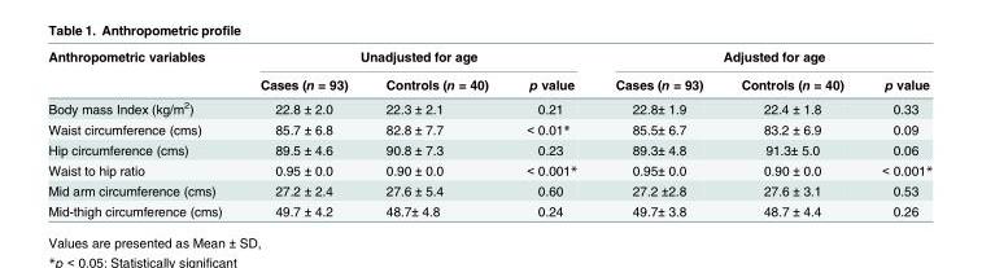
<table><thead><tr><td rowspan="2">Anthropometric variables</td><td colspan="3">Unadjusted for age</td><td colspan="3">Adjusted for age</td></tr><tr><td>Cases (n = 93)</td><td>Controls (n = 40)</td><td>p value</td><td>Cases (n = 93)</td><td>Controls (n = 40)</td><td>p value</td></tr></thead><tbody><tr><td>Body mass Index (kg/m<sup>2</sup>)</td><td>22.8 ± 2.0</td><td>22.3 ± 2.1</td><td>0.21</td><td>22.8± 1.9</td><td>22.4 ± 1.8</td><td>0.33</td></tr><tr><td>Waist circumference (cms)</td><td>85.7 ± 6.8</td><td>82.8 ± 7.7</td><td>&lt; 0.01*</td><td>85.5± 6.7</td><td>83.2 ± 6.9</td><td>0.09</td></tr><tr><td>Hip circumference (cms)</td><td>89.5 ± 4.6</td><td>90.8 ± 7.3</td><td>0.23</td><td>89.3± 4.8</td><td>91.3± 5.0</td><td>0.06</td></tr><tr><td>Waist to hip ratio</td><td>0.95 ± 0.0</td><td>0.90 ± 0.0</td><td>&lt; 0.001*</td><td>0.95± 0.0</td><td>0.90 ± 0.0</td><td>&lt; 0.001*</td></tr><tr><td>Mid arm circumference (cms)</td><td>27.2 ± 2.4</td><td>27.6 ± 5.4</td><td>0.60</td><td>27.2 ±2.8</td><td>27.6 ± 3.1</td><td>0.53</td></tr><tr><td>Mid-thigh circumference (cms)</td><td>49.7 ± 4.2</td><td>48.7± 4.8</td><td>0.24</td><td>49.7± 3.8</td><td>48.7 ± 4.4</td><td>0.26</td></tr></tbody></table>